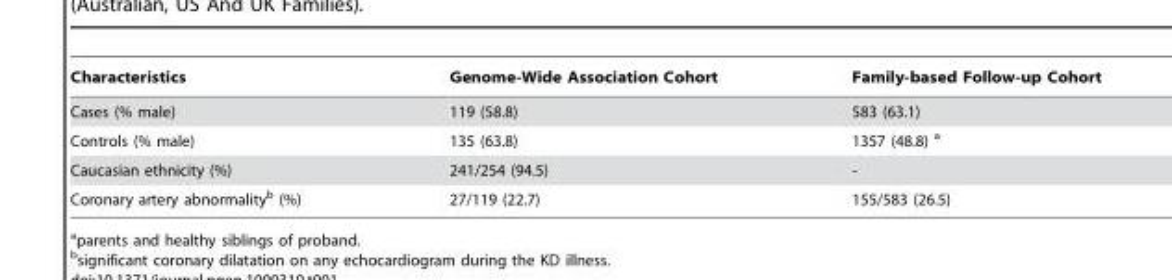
<table><thead><tr><td>Characteristics</td><td>Genome-Wide Association Cohort</td><td>Family-based Follow-up Cohort</td></tr></thead><tbody><tr><td>Cases (% male)</td><td>119 (58.8)</td><td>583 (63.1)</td></tr><tr><td>Controls (% male)</td><td>135 (63.8)</td><td>1357 (48.8) a</td></tr><tr><td>Caucasian ethnicity (%)</td><td>241/254 (94.5)</td><td>-</td></tr><tr><td>Coronary artery abnormality<sup>b</sup> (%)</td><td>27/119 (22.7)</td><td>155/583 (26.5)</td></tr></tbody></table>